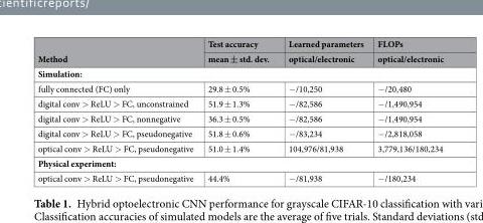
<table><thead><tr><td rowspan="2">Method</td><td rowspan="2">Test accuracy mean ± std. dev.</td><td rowspan="2">Learned parameters optical/electronic</td><td rowspan="2">FLOPs optical/electronic</td></tr><tr></tr></thead><tbody><tr><td colspan="4">Simulation:</td></tr><tr><td>fully connected (FC) only</td><td>29.8 ± 0.5%</td><td>−/10,250</td><td>−/20,480</td></tr><tr><td>digital conv &gt; ReLU &gt; FC, unconstrained</td><td>51.9 ± 1.3%</td><td>−/82,586</td><td>−/1,490,954</td></tr><tr><td>digital conv &gt; ReLU &gt; FC, nonnegative</td><td>36.3 ± 0.5%</td><td>−/82,586</td><td>−/1,490,954</td></tr><tr><td>digital conv &gt; ReLU &gt; FC, pseudonegative</td><td>51.8 ± 0.6%</td><td>−/83,234</td><td>−/2,818,058</td></tr><tr><td>optical conv &gt; ReLU &gt; FC, pseudonegative</td><td>51.0 ± 1.4%</td><td>104,976/81,938</td><td>3,779,136/180,234</td></tr><tr><td colspan="4">Physical experiment:</td></tr><tr><td>optical conv &gt; ReLU &gt; FC, pseudonegative</td><td>44.4%</td><td>−/81,938</td><td>−/180,234</td></tr></tbody></table>